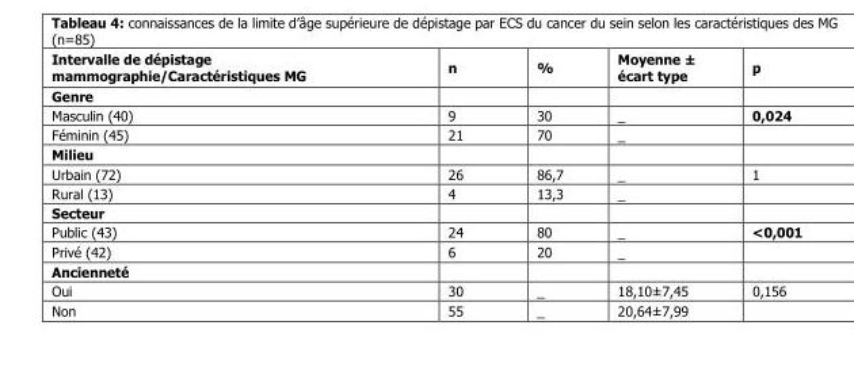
<table><thead><tr><td>Intervalle de dépistage mammographie/Caractéristiques MG</td><td>n</td><td>%</td><td>Moyenne ± écart type</td><td>p</td></tr></thead><tbody><tr><td colspan="5">Genre</td></tr><tr><td>Masculin (40)</td><td>9</td><td>30</td><td>–</td><td>0,024</td></tr><tr><td>Féminin (45)</td><td>21</td><td>70</td><td>–</td><td></td></tr><tr><td colspan="5">Milieu</td></tr><tr><td>Urbain (72)</td><td>26</td><td>86,7</td><td>–</td><td>1</td></tr><tr><td>Rural (13)</td><td>4</td><td>13,3</td><td>–</td><td></td></tr><tr><td colspan="5">Secteur</td></tr><tr><td>Public (43)</td><td>24</td><td>80</td><td>–</td><td>˂0,001</td></tr><tr><td>Privé (42)</td><td>6</td><td>20</td><td>–</td><td></td></tr><tr><td colspan="5">Ancienneté</td></tr><tr><td>Oui</td><td>30</td><td>–</td><td>18,10±7,45</td><td>0,156</td></tr><tr><td>Non</td><td>55</td><td>–</td><td>20,64±7,99</td><td></td></tr></tbody></table>